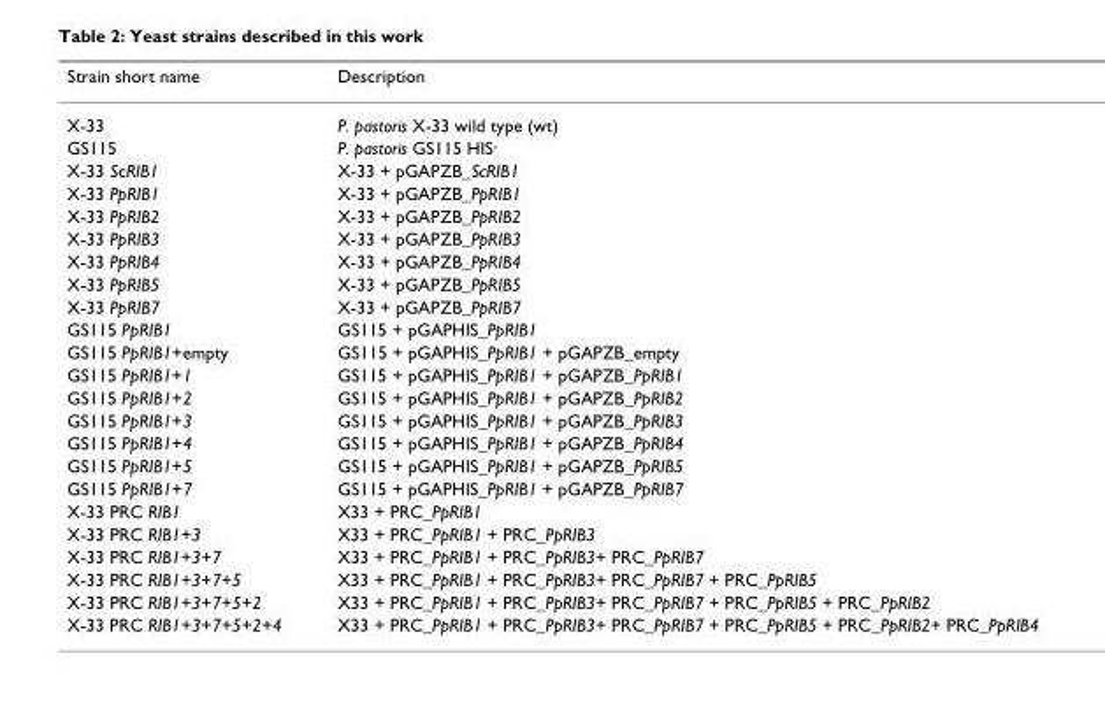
<table><thead><tr><td>Strain short name</td><td>Description</td></tr></thead><tbody><tr><td>X-33</td><td>P. pastoris X-33 wild type (wt)</td></tr><tr><td>GS115</td><td>P. pastoris GS115 HIS<sup>-</sup></td></tr><tr><td>X-33 ScRIB1</td><td>X-33 + pGAPZB_ScRIB1</td></tr><tr><td>X-33 PpRIB1</td><td>X-33 + pGAPZB_PpRIB1</td></tr><tr><td>X-33 PpRIB2</td><td>X-33 + pGAPZB_PpRIB2</td></tr><tr><td>X-33 PpRIB3</td><td>X-33 + pGAPZB_PpRIB3</td></tr><tr><td>X-33 PpRIB4</td><td>X-33 + pGAPZB_PpRIB4</td></tr><tr><td>X-33 PpRIB5</td><td>X-33 + pGAPZB_PpRIB5</td></tr><tr><td>X-33 PpRIB7</td><td>X-33 + pGAPZB_PpRIB7</td></tr><tr><td>GS115 PpRIB1</td><td>GS115 + pGAPHIS_PpRIB1</td></tr><tr><td>GS115 PpRIB1+empty</td><td>GS115 + pGAPHIS_PpRIB1 + pGAPZB_empty</td></tr><tr><td>GS115 PpRIB1+1</td><td>GS115 + pGAPHIS_PpRIB1 + pGAPZB_PpRIB1</td></tr><tr><td>GS115 PpRIB1+2</td><td>GS115 + pGAPHIS_PpRIB1 + pGAPZB_PpRIB2</td></tr><tr><td>GS115 PpRIB1+3</td><td>GS115 + pGAPHIS_PpRIB1 + pGAPZB_PpRIB3</td></tr><tr><td>GS115 PpRIB1+4</td><td>GS115 + pGAPHIS_PpRIB1 + pGAPZB_PpRIB4</td></tr><tr><td>GS115 PpRIB1+5</td><td>GS115 + pGAPHIS_PpRIB1 + pGAPZB_PpRIB5</td></tr><tr><td>GS115 PpRIB1+7</td><td>GS115 + pGAPHIS_PpRIB1 + pGAPZB_PpRIB7</td></tr><tr><td>X-33 PRC RIB1</td><td>X33 + PRC_PpRIB1</td></tr><tr><td>X-33 PRC RIB1+3</td><td>X33 + PRC_PpRIB1 + PRC_PpRIB3</td></tr><tr><td>X-33 PRC RIB1+3+7</td><td>X33 + PRC_PpRIB1 + PRC_PpRIB3+ PRC_PpRIB7</td></tr><tr><td>X-33 PRC RIB1+3+7+5</td><td>X33 + PRC_PpRIB1 + PRC_PpRIB3+ PRC_PpRIB7 + PRC_PpRIB5</td></tr><tr><td>X-33 PRC RIB1+3+7+5+2</td><td>X33 + PRC_PpRIB1 + PRC_PpRIB3+ PRC_PpRIB7 + PRC_PpRIB5 + PRC_PpRIB2</td></tr><tr><td>X-33 PRC RIB1+3+7+5+2+4</td><td>X33 + PRC_PpRIB1 + PRC_PpRIB3+ PRC_PpRIB7 + PRC_PpRIB5 + PRC_PpRIB2+ PRC_PpRIB4</td></tr></tbody></table>